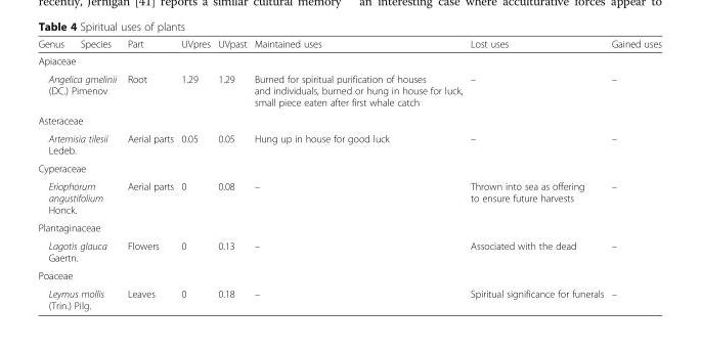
<table><thead><tr><td>Genus</td><td>Species</td><td>Part</td><td>UVpres</td><td>UVpast</td><td>Maintained uses</td><td>Lost uses</td><td>Gained uses</td></tr></thead><tbody><tr><td colspan="8">Apiaceae</td></tr><tr><td colspan="2">Angelica gmelinii (DC.) Pimenov</td><td>Root</td><td>1.29</td><td>1.29</td><td>Burned for spiritual purification of houses and individuals, burned or hung in house for luck, small piece eaten after first whale catch</td><td>–</td><td>–</td></tr><tr><td colspan="8">Asteraceae</td></tr><tr><td colspan="2">Artemisia tilesii Ledeb.</td><td>Aerial parts</td><td>0.05</td><td>0.05</td><td>Hung up in house for good luck</td><td>–</td><td>–</td></tr><tr><td colspan="8">Cyperaceae</td></tr><tr><td colspan="2">Eriophorum angustifolium Honck.</td><td>Aerial parts</td><td>0</td><td>0.08</td><td>–</td><td>Thrown into sea as offering to ensure future harvests</td><td>–</td></tr><tr><td colspan="8">Plantaginaceae</td></tr><tr><td colspan="2">Lagotis glauca Gaertn.</td><td>Flowers</td><td>0</td><td>0.13</td><td>–</td><td>Associated with the dead</td><td>–</td></tr><tr><td colspan="8">Poaceae</td></tr><tr><td colspan="2">Leymus mollis (Trin.) Pilg.</td><td>Leaves</td><td>0</td><td>0.18</td><td>–</td><td>Spiritual significance for funerals</td><td>–</td></tr></tbody></table>